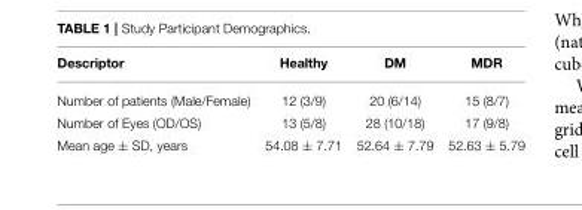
<table><thead><tr><td>Descriptor</td><td>Healthy</td><td>DM</td><td>MDR</td></tr></thead><tbody><tr><td>Number of patients (Male/Female)</td><td>12 (3/9)</td><td>20 (6/14)</td><td>15 (8/7)</td></tr><tr><td>Number of Eyes (OD/OS)</td><td>13 (5/8)</td><td>28 (10/18)</td><td>17 (9/8)</td></tr><tr><td>Mean age ± SD, years</td><td>54.08 ± 7.71</td><td>52.64 ± 7.79</td><td>52.63 ± 5.79</td></tr></tbody></table>